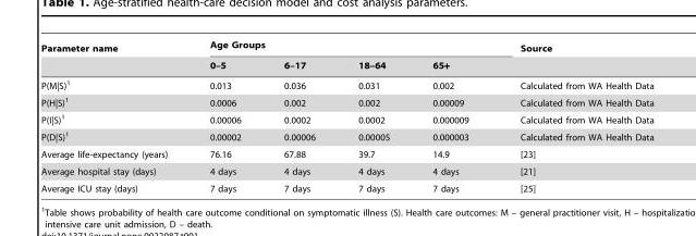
<table><thead><tr><td rowspan="2">Parameter name</td><td colspan="4">Age Groups</td><td rowspan="2">Source</td></tr><tr><td>0–5</td><td>6–17</td><td>18–64</td><td>65+</td></tr></thead><tbody><tr><td>P(M|S)<sup>1</sup></td><td>0.013</td><td>0.036</td><td>0.031</td><td>0.002</td><td>Calculated from WA Health Data</td></tr><tr><td>P(H|S)<sup>1</sup></td><td>0.0006</td><td>0.002</td><td>0.002</td><td>0.00009</td><td>Calculated from WA Health Data</td></tr><tr><td>P(I|S)<sup>1</sup></td><td>0.00006</td><td>0.0002</td><td>0.0002</td><td>0.000009</td><td>Calculated from WA Health Data</td></tr><tr><td>P(D|S)<sup>1</sup></td><td>0.00002</td><td>0.00006</td><td>0.00005</td><td>0.000003</td><td>Calculated from WA Health Data</td></tr><tr><td>Average life-expectancy (years)</td><td>76.16</td><td>67.88</td><td>39.7</td><td>14.9</td><td>[23]</td></tr><tr><td>Average hospital stay (days)</td><td>4 days</td><td>4 days</td><td>4 days</td><td>4 days</td><td>[21]</td></tr><tr><td>Average ICU stay (days)</td><td>7 days</td><td>7 days</td><td>7 days</td><td>7 days</td><td>[25]</td></tr></tbody></table>